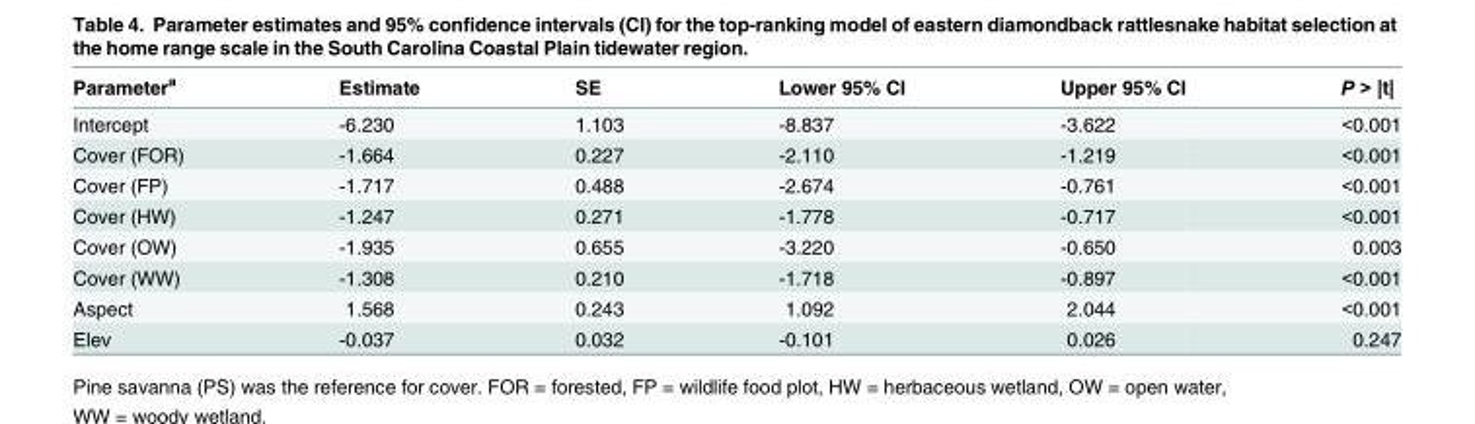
<table><thead><tr><td>Parameter<sup>a</sup></td><td>Estimate</td><td>SE</td><td>Lower 95% CI</td><td>Upper 95% CI</td><td>P &gt; |t|</td></tr></thead><tbody><tr><td>Intercept</td><td>-6.230</td><td>1.103</td><td>-8.837</td><td>-3.622</td><td>&lt;0.001</td></tr><tr><td>Cover (FOR)</td><td>-1.664</td><td>0.227</td><td>-2.110</td><td>-1.219</td><td>&lt;0.001</td></tr><tr><td>Cover (FP)</td><td>-1.717</td><td>0.488</td><td>-2.674</td><td>-0.761</td><td>&lt;0.001</td></tr><tr><td>Cover (HW)</td><td>-1.247</td><td>0.271</td><td>-1.778</td><td>-0.717</td><td>&lt;0.001</td></tr><tr><td>Cover (OW)</td><td>-1.935</td><td>0.655</td><td>-3.220</td><td>-0.650</td><td>0.003</td></tr><tr><td>Cover (WW)</td><td>-1.308</td><td>0.210</td><td>-1.718</td><td>-0.897</td><td>&lt;0.001</td></tr><tr><td>Aspect</td><td>1.568</td><td>0.243</td><td>1.092</td><td>2.044</td><td>&lt;0.001</td></tr><tr><td>Elev</td><td>-0.037</td><td>0.032</td><td>-0.101</td><td>0.026</td><td>0.247</td></tr></tbody></table>